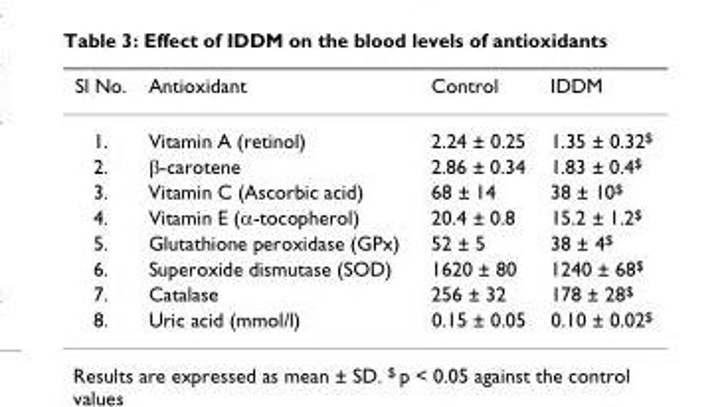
<table><thead><tr><td>Sl No.</td><td>Antioxidant</td><td>Control</td><td>IDDM</td></tr></thead><tbody><tr><td>1.</td><td>Vitamin A (retinol)</td><td>2.24 ± 0.25</td><td>1.35 ± 0.32<sup>$</sup></td></tr><tr><td>2.</td><td>β-carotene</td><td>2.86 ± 0.34</td><td>1.83 ± 0.4<sup>$</sup></td></tr><tr><td>3.</td><td>Vitamin C (Ascorbic acid)</td><td>68 ± 14</td><td>38 ± 10<sup>$</sup></td></tr><tr><td>4.</td><td>Vitamin E (α-tocopherol)</td><td>20.4 ± 0.8</td><td>15.2 ± 1.2<sup>$</sup></td></tr><tr><td>5.</td><td>Glutathione peroxidase (GPx)</td><td>52 ± 5</td><td>38 ± 4<sup>$</sup></td></tr><tr><td>6.</td><td>Superoxide dismutase (SOD)</td><td>1620 ± 80</td><td>1240 ± 68<sup>$</sup></td></tr><tr><td>7.</td><td>Catalase</td><td>256 ± 32</td><td>178 ± 28<sup>$</sup></td></tr><tr><td>8.</td><td>Uric acid (mmol/l)</td><td>0.15 ± 0.05</td><td>0.10 ± 0.02<sup>$</sup></td></tr></tbody></table>